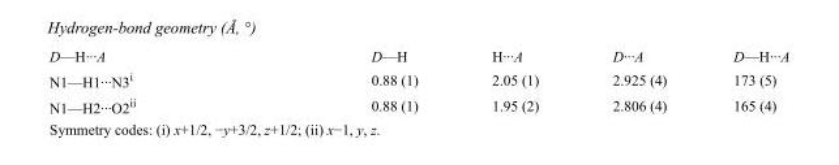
<table><tbody><tr><td>D—H···A</td><td>D—H</td><td>H···A</td><td>D···A</td><td>D—H···A</td></tr><tr><td>N1—H1···N3<sup>i</sup></td><td>0.88 (1)</td><td>2.05 (1)</td><td>2.925 (4)</td><td>173 (5)</td></tr><tr><td>N1—H2···O2<sup>ii</sup></td><td>0.88 (1)</td><td>1.95 (2)</td><td>2.806 (4)</td><td>165 (4)</td></tr></tbody></table>